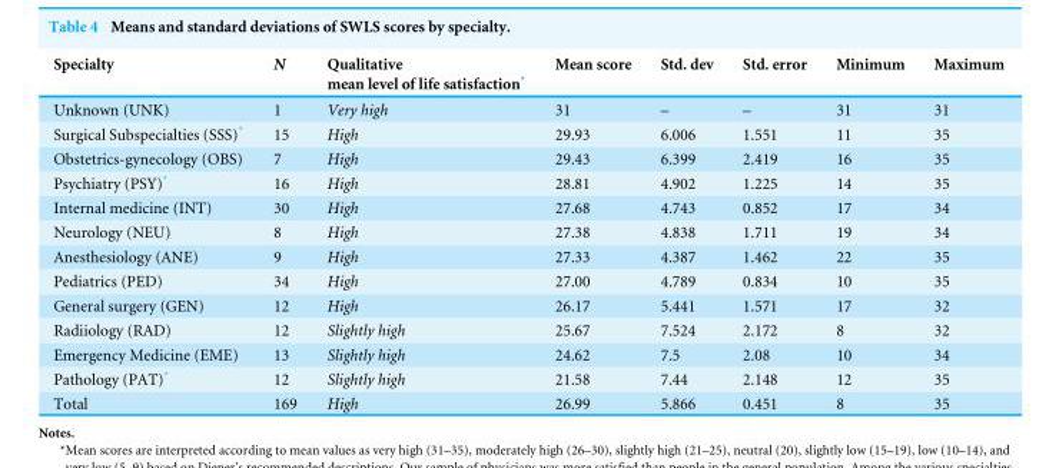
<table><thead><tr><td>Specialty</td><td>N</td><td>Qualitative mean level of life satisfaction*</td><td>Mean score</td><td>Std. dev</td><td>Std. error</td><td>Minimum</td><td>Maximum</td></tr></thead><tbody><tr><td>Unknown (UNK)</td><td>1</td><td>Very high</td><td>31</td><td>–</td><td>–</td><td>31</td><td>31</td></tr><tr><td>Surgical Subspecialties (SSS)*</td><td>15</td><td>High</td><td>29.93</td><td>6.006</td><td>1.551</td><td>11</td><td>35</td></tr><tr><td>Obstetrics-gynecology (OBS)</td><td>7</td><td>High</td><td>29.43</td><td>6.399</td><td>2.419</td><td>16</td><td>35</td></tr><tr><td>Psychiatry (PSY)*</td><td>16</td><td>High</td><td>28.81</td><td>4.902</td><td>1.225</td><td>14</td><td>35</td></tr><tr><td>Internal medicine (INT)</td><td>30</td><td>High</td><td>27.68</td><td>4.743</td><td>0.852</td><td>17</td><td>34</td></tr><tr><td>Neurology (NEU)</td><td>8</td><td>High</td><td>27.38</td><td>4.838</td><td>1.711</td><td>19</td><td>34</td></tr><tr><td>Anesthesiology (ANE)</td><td>9</td><td>High</td><td>27.33</td><td>4.387</td><td>1.462</td><td>22</td><td>35</td></tr><tr><td>Pediatrics (PED)</td><td>34</td><td>High</td><td>27.00</td><td>4.789</td><td>0.834</td><td>10</td><td>35</td></tr><tr><td>General surgery (GEN)</td><td>12</td><td>High</td><td>26.17</td><td>5.441</td><td>1.571</td><td>17</td><td>32</td></tr><tr><td>Radiiology (RAD)</td><td>12</td><td>Slightly high</td><td>25.67</td><td>7.524</td><td>2.172</td><td>8</td><td>32</td></tr><tr><td>Emergency Medicine (EME)</td><td>13</td><td>Slightly high</td><td>24.62</td><td>7.5</td><td>2.08</td><td>10</td><td>34</td></tr><tr><td>Pathology (PAT)*</td><td>12</td><td>Slightly high</td><td>21.58</td><td>7.44</td><td>2.148</td><td>12</td><td>35</td></tr><tr><td>Total</td><td>169</td><td>High</td><td>26.99</td><td>5.866</td><td>0.451</td><td>8</td><td>35</td></tr></tbody></table>